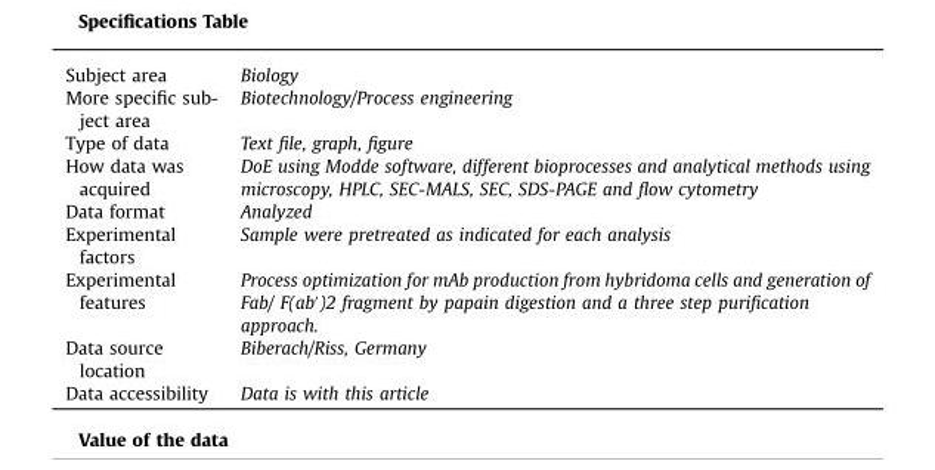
<table><tbody><tr><td>Subject area</td><td>Biology</td></tr><tr><td>More specific sub- ject area</td><td>Biotechnology/Process engineering</td></tr><tr><td>Type of data</td><td>Text file, graph, figure</td></tr><tr><td>How data was acquired</td><td>DoE using Modde software, different bioprocesses and analytical methods using microscopy, HPLC, SEC-MALS, SEC, SDS-PAGE and flow cytometry</td></tr><tr><td>Data format</td><td>Analyzed</td></tr><tr><td>Experimental factors</td><td>Sample were pretreated as indicated for each analysis</td></tr><tr><td>Experimental features</td><td>Process optimization for mAb production from hybridoma cells and generation of Fab/ F(ab′)2 fragment by papain digestion and a three step purification approach.</td></tr><tr><td>Data source location</td><td>Biberach/Riss, Germany</td></tr><tr><td>Data accessibility</td><td>Data is with this article</td></tr></tbody></table>